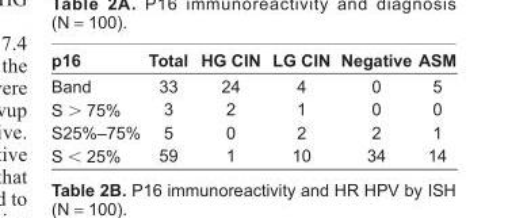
<table><thead><tr><td>p16</td><td>Total</td><td>HG CIN</td><td>LG CIN</td><td>Negative</td><td>ASM</td></tr></thead><tbody><tr><td>Band</td><td>33</td><td>24</td><td>4</td><td>0</td><td>5</td></tr><tr><td>S &gt; 75%</td><td>3</td><td>2</td><td>1</td><td>0</td><td>0</td></tr><tr><td>S25%–75%</td><td>5</td><td>0</td><td>2</td><td>2</td><td>1</td></tr><tr><td>S &lt; 25%</td><td>59</td><td>1</td><td>10</td><td>34</td><td>14</td></tr></tbody></table>